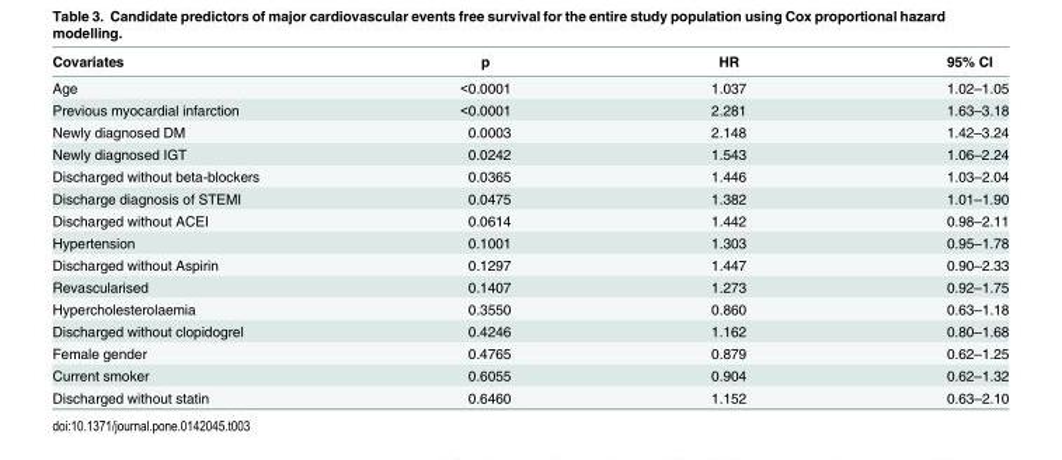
<table><thead><tr><td>Covariates</td><td>p</td><td>HR</td><td>95% CI</td></tr></thead><tbody><tr><td>Age</td><td>&lt;0.0001</td><td>1.037</td><td>1.02–1.05</td></tr><tr><td>Previous myocardial infarction</td><td>&lt;0.0001</td><td>2.281</td><td>1.63–3.18</td></tr><tr><td>Newly diagnosed DM</td><td>0.0003</td><td>2.148</td><td>1.42–3.24</td></tr><tr><td>Newly diagnosed IGT</td><td>0.0242</td><td>1.543</td><td>1.06–2.24</td></tr><tr><td>Discharged without beta-blockers</td><td>0.0365</td><td>1.446</td><td>1.03–2.04</td></tr><tr><td>Discharge diagnosis of STEMI</td><td>0.0475</td><td>1.382</td><td>1.01–1.90</td></tr><tr><td>Discharged without ACEI</td><td>0.0614</td><td>1.442</td><td>0.98–2.11</td></tr><tr><td>Hypertension</td><td>0.1001</td><td>1.303</td><td>0.95–1.78</td></tr><tr><td>Discharged without Aspirin</td><td>0.1297</td><td>1.447</td><td>0.90–2.33</td></tr><tr><td>Revascularised</td><td>0.1407</td><td>1.273</td><td>0.92–1.75</td></tr><tr><td>Hypercholesterolaemia</td><td>0.3550</td><td>0.860</td><td>0.63–1.18</td></tr><tr><td>Discharged without clopidogrel</td><td>0.4246</td><td>1.162</td><td>0.80–1.68</td></tr><tr><td>Female gender</td><td>0.4765</td><td>0.879</td><td>0.62–1.25</td></tr><tr><td>Current smoker</td><td>0.6055</td><td>0.904</td><td>0.62–1.32</td></tr><tr><td>Discharged without statin</td><td>0.6460</td><td>1.152</td><td>0.63–2.10</td></tr></tbody></table>